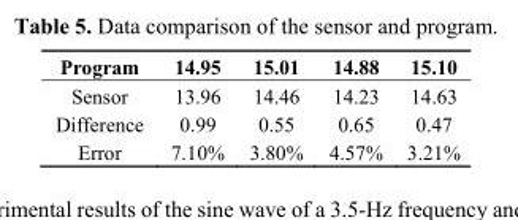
<table><thead><tr><td>Program</td><td>14.95</td><td>15.01</td><td>14.88</td><td>15.10</td></tr></thead><tbody><tr><td>Sensor</td><td>13.96</td><td>14.46</td><td>14.23</td><td>14.63</td></tr><tr><td>Difference</td><td>0.99</td><td>0.55</td><td>0.65</td><td>0.47</td></tr><tr><td>Error</td><td>7.10%</td><td>3.80%</td><td>4.57%</td><td>3.21%</td></tr></tbody></table>